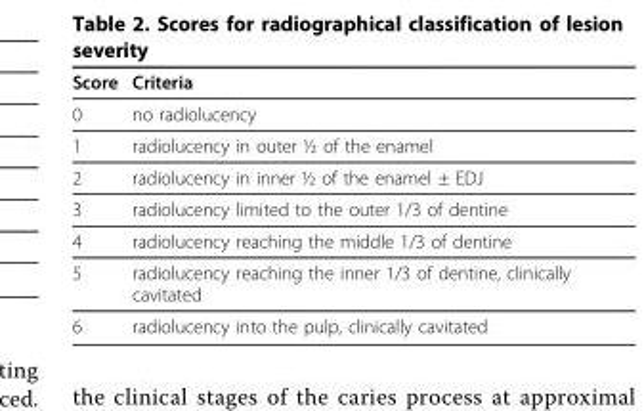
<table><thead><tr><td>Score</td><td>Criteria</td></tr></thead><tbody><tr><td>0</td><td>no radiolucency</td></tr><tr><td>1</td><td>radiolucency in outer ½ of the enamel</td></tr><tr><td>2</td><td>radiolucency in inner ½ of the enamel ± EDJ</td></tr><tr><td>3</td><td>radiolucency limited to the outer 1/3 of dentine</td></tr><tr><td>4</td><td>radiolucency reaching the middle 1/3 of dentine</td></tr><tr><td>5</td><td>radiolucency reaching the inner 1/3 of dentine, clinically cavitated</td></tr><tr><td>6</td><td>radiolucency into the pulp, clinically cavitated</td></tr></tbody></table>